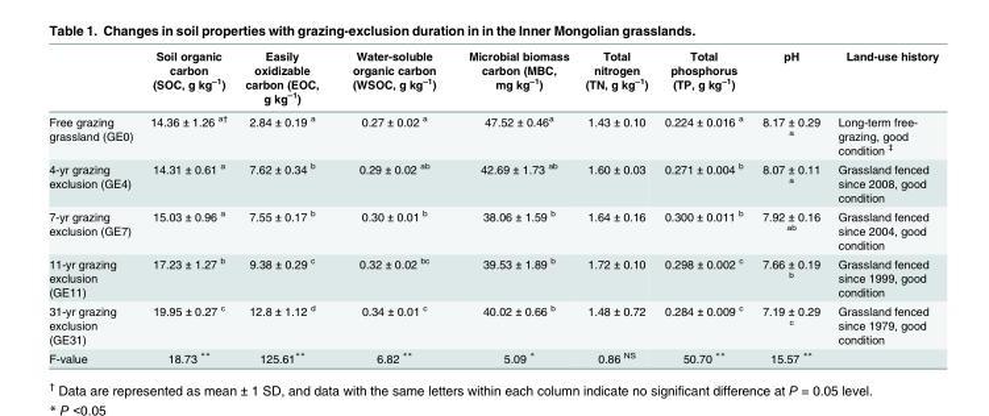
<table><thead><tr><td></td><td>Soil organic carbon (SOC, g kg<sup>–1</sup>)</td><td>Easily oxidizable carbon (EOC, g kg<sup>–1</sup>)</td><td>Water-soluble organic carbon (WSOC, g kg<sup>–1</sup>)</td><td>Microbial biomass carbon (MBC, mg kg<sup>–1</sup>)</td><td>Total nitrogen (TN, g kg<sup>–1</sup>)</td><td>Total phosphorus (TP, g kg<sup>–1</sup>)</td><td>pH</td><td>Land-use history</td></tr></thead><tbody><tr><td>Free grazing grassland (GE0)</td><td>14.36 ± 1.26 <sup>a†</sup></td><td>2.84 ± 0.19 <sup>a</sup></td><td>0.27 ± 0.02 <sup>a</sup></td><td>47.52 ± 0.46<sup>a</sup></td><td>1.43 ± 0.10</td><td>0.224 ± 0.016 <sup>a</sup></td><td>8.17 ± 0.29 <sup>a</sup></td><td>Long-term free- grazing, good condition <sup>‡</sup></td></tr><tr><td>4-yr grazing exclusion (GE4)</td><td>14.31 ± 0.61 <sup>a</sup></td><td>7.62 ± 0.34 <sup>b</sup></td><td>0.29 ± 0.02 <sup>ab</sup></td><td>42.69 ± 1.73 <sup>ab</sup></td><td>1.60 ± 0.03</td><td>0.271 ± 0.004 <sup>b</sup></td><td>8.07 ± 0.11 <sup>a</sup></td><td>Grassland fenced since 2008, good condition</td></tr><tr><td>7-yr grazing exclusion (GE7)</td><td>15.03 ± 0.96 <sup>a</sup></td><td>7.55 ± 0.17 <sup>b</sup></td><td>0.30 ± 0.01 <sup>b</sup></td><td>38.06 ± 1.59 <sup>b</sup></td><td>1.64 ± 0.16</td><td>0.300 ± 0.011 <sup>b</sup></td><td>7.92 ± 0.16 <sup>ab</sup></td><td>Grassland fenced since 2004, good condition</td></tr><tr><td>11-yr grazing exclusion (GE11)</td><td>17.23 ± 1.27 <sup>b</sup></td><td>9.38 ± 0.29 <sup>c</sup></td><td>0.32 ± 0.02 <sup>bc</sup></td><td>39.53 ± 1.89 <sup>b</sup></td><td>1.72 ± 0.10</td><td>0.298 ± 0.002 <sup>c</sup></td><td>7.66 ± 0.19 <sup>b</sup></td><td>Grassland fenced since 1999, good condition</td></tr><tr><td>31-yr grazing exclusion (GE31)</td><td>19.95 ± 0.27 <sup>c</sup></td><td>12.8 ± 1.12 <sup>d</sup></td><td>0.34 ± 0.01 <sup>c</sup></td><td>40.02 ± 0.66 <sup>b</sup></td><td>1.48 ± 0.72</td><td>0.284 ± 0.009 <sup>c</sup></td><td>7.19 ± 0.29 <sup>c</sup></td><td>Grassland fenced since 1979, good condition</td></tr><tr><td>F-value</td><td>18.73 **</td><td>125.61**</td><td>6.82 **</td><td>5.09 *</td><td>0.86 <sup>NS</sup></td><td>50.70 **</td><td>15.57 **</td><td></td></tr></tbody></table>